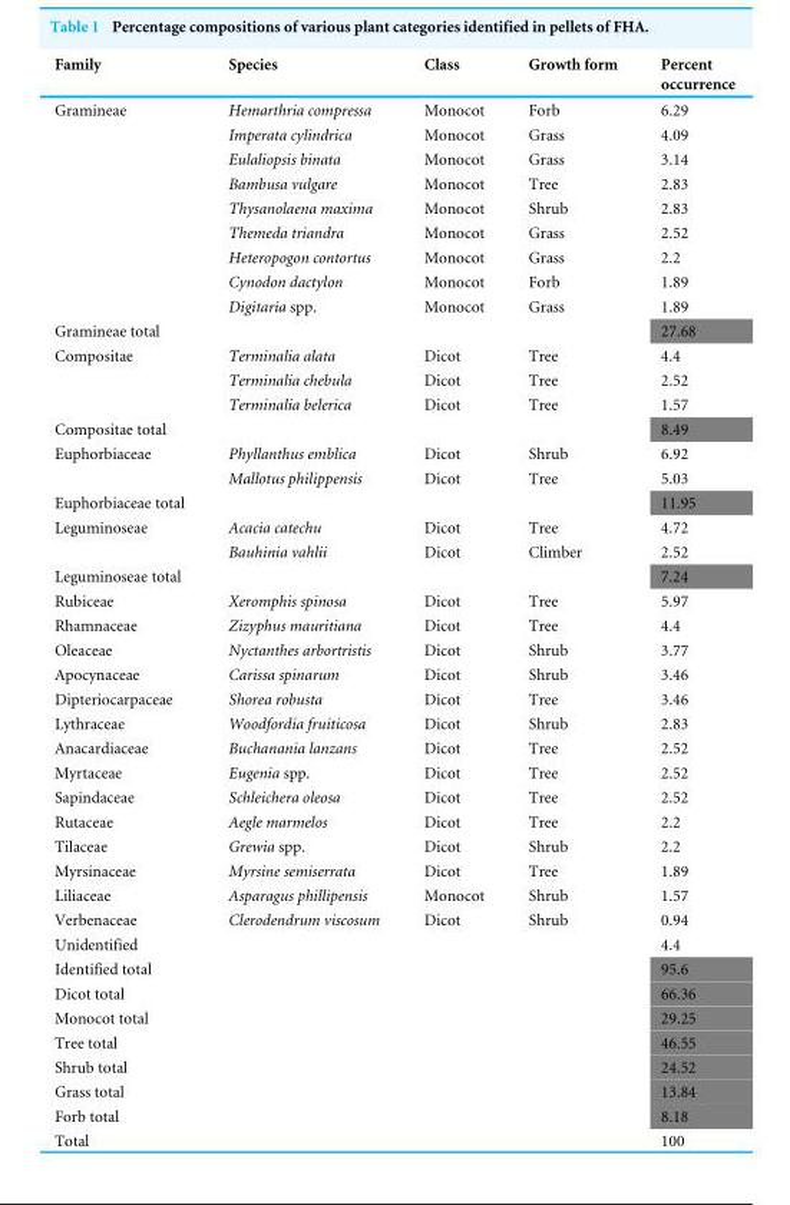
<table><thead><tr><td>Family</td><td>Species</td><td>Class</td><td>Growth form</td><td>Percent occurrence</td></tr></thead><tbody><tr><td rowspan="9">Gramineae</td><td>Hemarthria compressa</td><td>Monocot</td><td>Forb</td><td>6.29</td></tr><tr><td>Imperata cylindrica</td><td>Monocot</td><td>Grass</td><td>4.09</td></tr><tr><td>Eulaliopsis binata</td><td>Monocot</td><td>Grass</td><td>3.14</td></tr><tr><td>Bambusa vulgare</td><td>Monocot</td><td>Tree</td><td>2.83</td></tr><tr><td>Thysanolaena maxima</td><td>Monocot</td><td>Shrub</td><td>2.83</td></tr><tr><td>Themeda triandra</td><td>Monocot</td><td>Grass</td><td>2.52</td></tr><tr><td>Heteropogon contortus</td><td>Monocot</td><td>Grass</td><td>2.2</td></tr><tr><td>Cynodon dactylon</td><td>Monocot</td><td>Forb</td><td>1.89</td></tr><tr><td>Digitaria spp.</td><td>Monocot</td><td>Grass</td><td>1.89</td></tr><tr><td>Gramineae total</td><td></td><td></td><td></td><td>27.68</td></tr><tr><td rowspan="3">Compositae</td><td>Terminalia alata</td><td>Dicot</td><td>Tree</td><td>4.4</td></tr><tr><td>Terminalia chebula</td><td>Dicot</td><td>Tree</td><td>2.52</td></tr><tr><td>Terminalia belerica</td><td>Dicot</td><td>Tree</td><td>1.57</td></tr><tr><td>Compositae total</td><td></td><td></td><td></td><td>8.49</td></tr><tr><td rowspan="2">Euphorbiaceae</td><td>Phyllanthus emblica</td><td>Dicot</td><td>Shrub</td><td>6.92</td></tr><tr><td>Mallotus philippensis</td><td>Dicot</td><td>Tree</td><td>5.03</td></tr><tr><td>Euphorbiaceae total</td><td></td><td></td><td></td><td>11.95</td></tr><tr><td rowspan="2">Leguminoseae</td><td>Acacia catechu</td><td>Dicot</td><td>Tree</td><td>4.72</td></tr><tr><td>Bauhinia vahlii</td><td>Dicot</td><td>Climber</td><td>2.52</td></tr><tr><td>Leguminoseae total</td><td></td><td></td><td></td><td>7.24</td></tr><tr><td>Rubiceae</td><td>Xeromphis spinosa</td><td>Dicot</td><td>Tree</td><td>5.97</td></tr><tr><td>Rhamnaceae</td><td>Zizyphus mauritiana</td><td>Dicot</td><td>Tree</td><td>4.4</td></tr><tr><td>Oleaceae</td><td>Nyctanthes arbortristis</td><td>Dicot</td><td>Shrub</td><td>3.77</td></tr><tr><td>Apocynaceae</td><td>Carissa spinarum</td><td>Dicot</td><td>Shrub</td><td>3.46</td></tr><tr><td>Dipteriocarpaceae</td><td>Shorea robusta</td><td>Dicot</td><td>Tree</td><td>3.46</td></tr><tr><td>Lythraceae</td><td>Woodfordia fruiticosa</td><td>Dicot</td><td>Shrub</td><td>2.83</td></tr><tr><td>Anacardiaceae</td><td>Buchanania lanzans</td><td>Dicot</td><td>Tree</td><td>2.52</td></tr><tr><td>Myrtaceae</td><td>Eugenia spp.</td><td>Dicot</td><td>Tree</td><td>2.52</td></tr><tr><td>Sapindaceae</td><td>Schleichera oleosa</td><td>Dicot</td><td>Tree</td><td>2.52</td></tr><tr><td>Rutaceae</td><td>Aegle marmelos</td><td>Dicot</td><td>Tree</td><td>2.2</td></tr><tr><td>Tilaceae</td><td>Grewia spp.</td><td>Dicot</td><td>Shrub</td><td>2.2</td></tr><tr><td>Myrsinaceae</td><td>Myrsine semiserrata</td><td>Dicot</td><td>Tree</td><td>1.89</td></tr><tr><td>Liliaceae</td><td>Asparagus phillipensis</td><td>Monocot</td><td>Shrub</td><td>1.57</td></tr><tr><td>Verbenaceae</td><td>Clerodendrum viscosum</td><td>Dicot</td><td>Shrub</td><td>0.94</td></tr><tr><td>Unidentified</td><td></td><td></td><td></td><td>4.4</td></tr><tr><td>Identified total</td><td></td><td></td><td></td><td>95.6</td></tr><tr><td>Dicot total</td><td></td><td></td><td></td><td>66.36</td></tr><tr><td>Monocot total</td><td></td><td></td><td></td><td>29.25</td></tr><tr><td>Tree total</td><td></td><td></td><td></td><td>46.55</td></tr><tr><td>Shrub total</td><td></td><td></td><td></td><td>24.52</td></tr><tr><td>Grass total</td><td></td><td></td><td></td><td>13.84</td></tr><tr><td>Forb total</td><td></td><td></td><td></td><td>8.18</td></tr><tr><td>Total</td><td></td><td></td><td></td><td>100</td></tr></tbody></table>